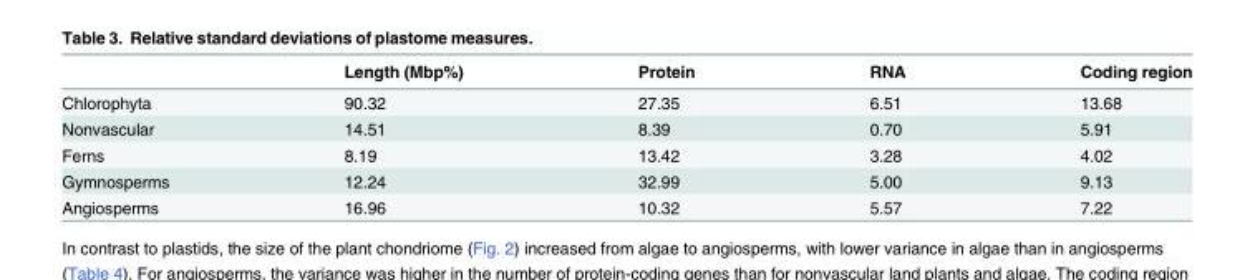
<table><thead><tr><td></td><td>Length (Mbp%)</td><td>Protein</td><td>RNA</td><td>Coding region</td></tr></thead><tbody><tr><td>Chlorophyta</td><td>90.32</td><td>27.35</td><td>6.51</td><td>13.68</td></tr><tr><td>Nonvascular</td><td>14.51</td><td>8.39</td><td>0.70</td><td>5.91</td></tr><tr><td>Ferns</td><td>8.19</td><td>13.42</td><td>3.28</td><td>4.02</td></tr><tr><td>Gymnosperms</td><td>12.24</td><td>32.99</td><td>5.00</td><td>9.13</td></tr><tr><td>Angiosperms</td><td>16.96</td><td>10.32</td><td>5.57</td><td>7.22</td></tr></tbody></table>